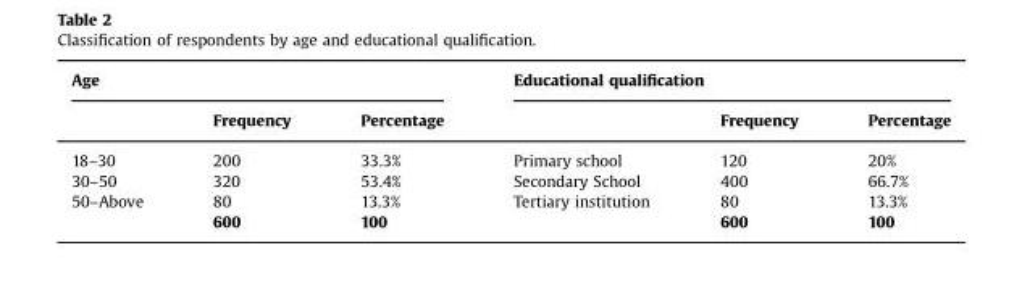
<table><thead><tr><td colspan="3">Age</td><td colspan="3">Educational qualification</td></tr><tr><td></td><td>Frequency</td><td>Percentage</td><td></td><td>Frequency</td><td>Percentage</td></tr></thead><tbody><tr><td>18–30</td><td>200</td><td>33.3%</td><td>Primary school</td><td>120</td><td>20%</td></tr><tr><td>30–50</td><td>320</td><td>53.4%</td><td>Secondary School</td><td>400</td><td>66.7%</td></tr><tr><td rowspan="2">50–Above</td><td>80</td><td>13.3%</td><td>Tertiary institution</td><td>80</td><td>13.3%</td></tr><tr><td>600</td><td>100</td><td></td><td>600</td><td>100</td></tr></tbody></table>